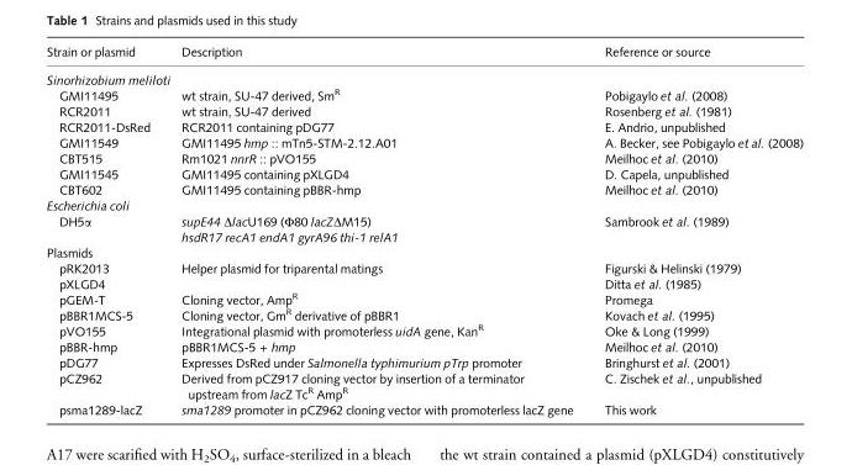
<table><thead><tr><td>Strain or plasmid</td><td>Description</td><td>Reference or source</td></tr></thead><tbody><tr><td colspan="3">Sinorhizobium meliloti</td></tr><tr><td>GMI11495</td><td>wt strain, SU-47 derived, Sm<sup>R</sup></td><td>Pobigaylo et al. (2008)</td></tr><tr><td>RCR2011</td><td>wt strain, SU-47 derived</td><td>Rosenberg et al. (1981)</td></tr><tr><td>RCR2011-DsRed</td><td>RCR2011 containing pDG77</td><td>E. Andrio, unpublished</td></tr><tr><td>GMI11549</td><td>GMI11495 hmp :: mTn5-STM-2.12.A01</td><td>A. Becker, see Pobigaylo et al. (2008)</td></tr><tr><td>CBT515</td><td>Rm1021 nnrR :: pVO155</td><td>Meilhoc et al. (2010)</td></tr><tr><td>GMI11545</td><td>GMI11495 containing pXLGD4</td><td>D. Capela, unpublished</td></tr><tr><td>CBT602</td><td>GMI11495 containing pBBR-hmp</td><td>Meilhoc et al. (2010)</td></tr><tr><td colspan="3">Escherichia coli</td></tr><tr><td rowspan="2">DH5α</td><td>supE44 ΔlacU169 (Φ80 lacZΔM15)</td><td>Sambrook et al. (1989)</td></tr><tr><td>hsdR17 recA1 endA1 gyrA96 thi-1 relA1</td><td></td></tr><tr><td colspan="3">Plasmids</td></tr><tr><td>pRK2013</td><td>Helper plasmid for triparental matings</td><td>Figurski &amp; Helinski (1979)</td></tr><tr><td>pXLGD4</td><td></td><td>Ditta et al. (1985)</td></tr><tr><td>pGEM-T</td><td>Cloning vector, Amp<sup>R</sup></td><td>Promega</td></tr><tr><td>pBBR1MCS-5</td><td>Cloning vector, Gm<sup>R</sup> derivative of pBBR1</td><td>Kovach et al. (1995)</td></tr><tr><td>pVO155</td><td>Integrational plasmid with promoterless uidA gene, Kan<sup>R</sup></td><td>Oke &amp; Long (1999)</td></tr><tr><td>pBBR-hmp</td><td>pBBR1MCS-5 + hmp</td><td>Meilhoc et al. (2010)</td></tr><tr><td>pDG77</td><td>Expresses DsRed under Salmonella typhimurium pTrp promoter</td><td>Bringhurst et al. (2001)</td></tr><tr><td>pCZ962</td><td>Derived from pCZ917 cloning vector by insertion of a terminator upstream from lacZ Tc<sup>R</sup> Amp<sup>R</sup></td><td>C. Zischek et al., unpublished</td></tr><tr><td>psma1289-lacZ</td><td>sma1289 promoter in pCZ962 cloning vector with promoterless lacZ gene</td><td>This work</td></tr></tbody></table>